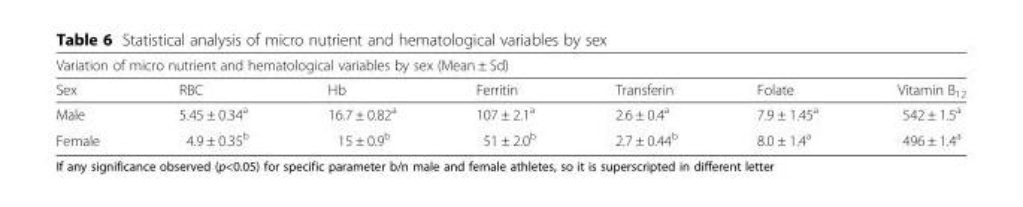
<table><thead><tr><td colspan="7">Variation of micro nutrient and hematological variables by sex (Mean ± Sd)</td></tr><tr><td>Sex</td><td>RBC</td><td>Hb</td><td>Ferritin</td><td>Transferin</td><td>Folate</td><td>Vitamin B<sub>12</sub></td></tr></thead><tbody><tr><td>Male</td><td>5.45 ± 0.34<sup>a</sup></td><td>16.7 ± 0.82<sup>a</sup></td><td>107 ± 2.1<sup>a</sup></td><td>2.6 ± 0.4<sup>a</sup></td><td>7.9 ± 1.45<sup>a</sup></td><td>542 ± 1.5<sup>a</sup></td></tr><tr><td>Female</td><td>4.9 ± 0.35<sup>b</sup></td><td>15 ± 0.9<sup>b</sup></td><td>51 ± 2.0<sup>b</sup></td><td>2.7 ± 0.44<sup>b</sup></td><td>8.0 ± 1.4<sup>a</sup></td><td>496 ± 1.4<sup>a</sup></td></tr></tbody></table>